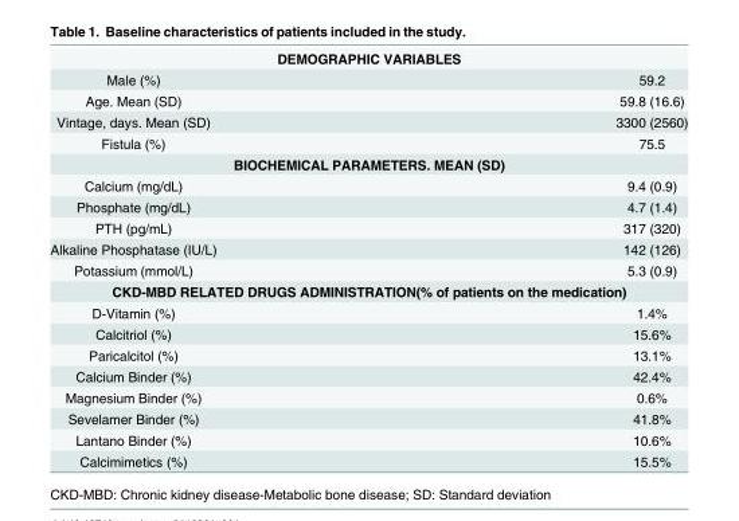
<table><tbody><tr><td colspan="2">DEMOGRAPHIC VARIABLES</td></tr><tr><td>Male (%)</td><td>59.2</td></tr><tr><td>Age. Mean (SD)</td><td>59.8 (16.6)</td></tr><tr><td>Vintage, days. Mean (SD)</td><td>3300 (2560)</td></tr><tr><td>Fistula (%)</td><td>75.5</td></tr><tr><td colspan="2">BIOCHEMICAL PARAMETERS. MEAN (SD)</td></tr><tr><td>Calcium (mg/dL)</td><td>9.4 (0.9)</td></tr><tr><td>Phosphate (mg/dL)</td><td>4.7 (1.4)</td></tr><tr><td>PTH (pg/mL)</td><td>317 (320)</td></tr><tr><td>Alkaline Phosphatase (IU/L)</td><td>142 (126)</td></tr><tr><td>Potassium (mmol/L)</td><td>5.3 (0.9)</td></tr><tr><td colspan="2">CKD-MBD RELATED DRUGS ADMINISTRATION(% of patients on the medication)</td></tr><tr><td>D-Vitamin (%)</td><td>1.4%</td></tr><tr><td>Calcitriol (%)</td><td>15.6%</td></tr><tr><td>Paricalcitol (%)</td><td>13.1%</td></tr><tr><td>Calcium Binder (%)</td><td>42.4%</td></tr><tr><td>Magnesium Binder (%)</td><td>0.6%</td></tr><tr><td>Sevelamer Binder (%)</td><td>41.8%</td></tr><tr><td>Lantano Binder (%)</td><td>10.6%</td></tr><tr><td>Calcimimetics (%)</td><td>15.5%</td></tr></tbody></table>